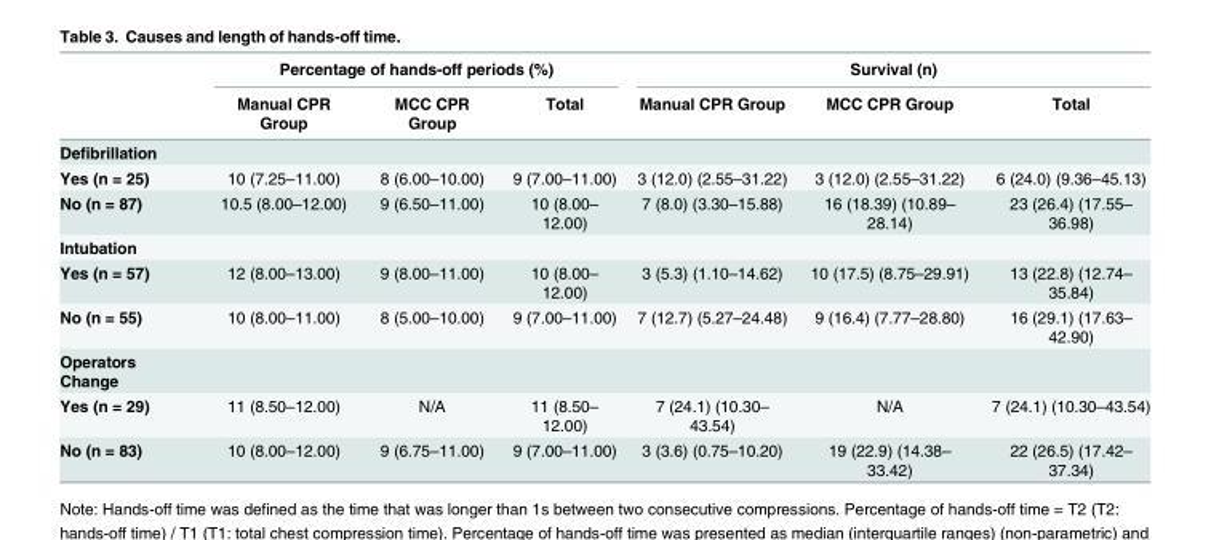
<table><thead><tr><td rowspan="2"></td><td colspan="3">Percentage of hands-off periods (%)</td><td colspan="3">Survival (n)</td></tr><tr><td>Manual CPR Group</td><td>MCC CPR Group</td><td>Total</td><td>Manual CPR Group</td><td>MCC CPR Group</td><td>Total</td></tr></thead><tbody><tr><td colspan="7">Defibrillation</td></tr><tr><td>Yes (n = 25)</td><td>10 (7.25–11.00)</td><td>8 (6.00–10.00)</td><td>9 (7.00–11.00)</td><td>3 (12.0) (2.55–31.22)</td><td>3 (12.0) (2.55–31.22)</td><td>6 (24.0) (9.36–45.13)</td></tr><tr><td>No (n = 87)</td><td>10.5 (8.00–12.00)</td><td>9 (6.50–11.00)</td><td>10 (8.00– 12.00)</td><td>7 (8.0) (3.30–15.88)</td><td>16 (18.39) (10.89– 28.14)</td><td>23 (26.4) (17.55– 36.98)</td></tr><tr><td colspan="7">Intubation</td></tr><tr><td>Yes (n = 57)</td><td>12 (8.00–13.00)</td><td>9 (8.00–11.00)</td><td>10 (8.00– 12.00)</td><td>3 (5.3) (1.10–14.62)</td><td>10 (17.5) (8.75–29.91)</td><td>13 (22.8) (12.74– 35.84)</td></tr><tr><td>No (n = 55)</td><td>10 (8.00–11.00)</td><td>8 (5.00–10.00)</td><td>9 (7.00–11.00)</td><td>7 (12.7) (5.27–24.48)</td><td>9 (16.4) (7.77–28.80)</td><td>16 (29.1) (17.63– 42.90)</td></tr><tr><td colspan="7">Operators Change</td></tr><tr><td>Yes (n = 29)</td><td>11 (8.50–12.00)</td><td>N/A</td><td>11 (8.50– 12.00)</td><td>7 (24.1) (10.30– 43.54)</td><td>N/A</td><td>7 (24.1) (10.30–43.54)</td></tr><tr><td>No (n = 83)</td><td>10 (8.00–12.00)</td><td>9 (6.75–11.00)</td><td>9 (7.00–11.00)</td><td>3 (3.6) (0.75–10.20)</td><td>19 (22.9) (14.38– 33.42)</td><td>22 (26.5) (17.42– 37.34)</td></tr></tbody></table>